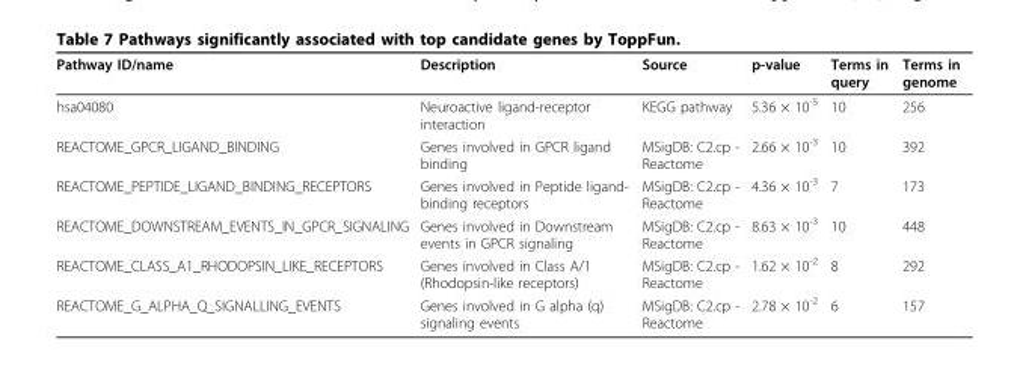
<table><thead><tr><td>Pathway ID/name</td><td>Description</td><td>Source</td><td>p-value</td><td>Terms in query</td><td>Terms in genome</td></tr></thead><tbody><tr><td>hsa04080</td><td>Neuroactive ligand-receptor interaction</td><td>KEGG pathway</td><td>5.36 × 10<sup>-5</sup></td><td>10</td><td>256</td></tr><tr><td>REACTOME_GPCR_LIGAND_BINDING</td><td>Genes involved in GPCR ligand binding</td><td>MSigDB: C2.cp - Reactome</td><td>2.66 × 10<sup>-3</sup></td><td>10</td><td>392</td></tr><tr><td>REACTOME_PEPTIDE_LIGAND_BINDING_RECEPTORS</td><td>Genes involved in Peptide ligand- binding receptors</td><td>MSigDB: C2.cp - Reactome</td><td>4.36 × 10<sup>-3</sup></td><td>7</td><td>173</td></tr><tr><td>REACTOME_DOWNSTREAM_EVENTS_IN_GPCR_SIGNALING</td><td>Genes involved in Downstream events in GPCR signaling</td><td>MSigDB: C2.cp - Reactome</td><td>8.63 × 10<sup>-3</sup></td><td>10</td><td>448</td></tr><tr><td>REACTOME_CLASS_A1_RHODOPSIN_LIKE_RECEPTORS</td><td>Genes involved in Class A/1 (Rhodopsin-like receptors)</td><td>MSigDB: C2.cp - Reactome</td><td>1.62 × 10<sup>-2</sup></td><td>8</td><td>292</td></tr><tr><td>REACTOME_G_ALPHA_Q_SIGNALLING_EVENTS</td><td>Genes involved in G alpha (q) signaling events</td><td>MSigDB: C2.cp - Reactome</td><td>2.78 × 10<sup>-2</sup></td><td>6</td><td>157</td></tr></tbody></table>